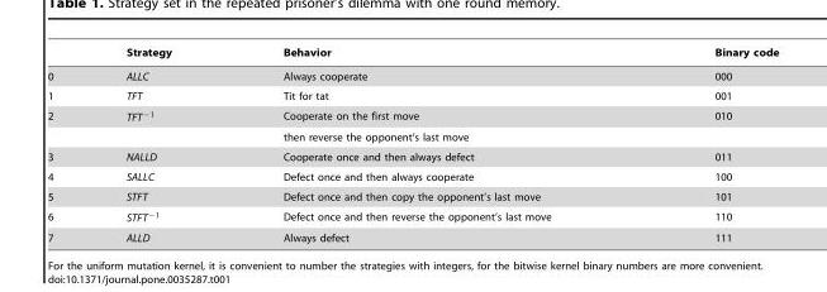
<table><thead><tr><td></td><td>Strategy</td><td>Behavior</td><td>Binary code</td></tr></thead><tbody><tr><td>0</td><td>ALLC</td><td>Always cooperate</td><td>000</td></tr><tr><td>1</td><td>TFT</td><td>Tit for tat</td><td>001</td></tr><tr><td rowspan="2">2</td><td>TFT{1</td><td>Cooperate on the first move</td><td>010</td></tr><tr><td></td><td>then reverse the opponent’s last move</td><td></td></tr><tr><td>3</td><td>NALLD</td><td>Cooperate once and then always defect</td><td>011</td></tr><tr><td>4</td><td>SALLC</td><td>Defect once and then always cooperate</td><td>100</td></tr><tr><td>5</td><td>STFT</td><td>Defect once and then copy the opponent’s last move</td><td>101</td></tr><tr><td>6</td><td>STFT{1</td><td>Defect once and then reverse the opponent’s last move</td><td>110</td></tr><tr><td>7</td><td>ALLD</td><td>Always defect</td><td>111</td></tr></tbody></table>